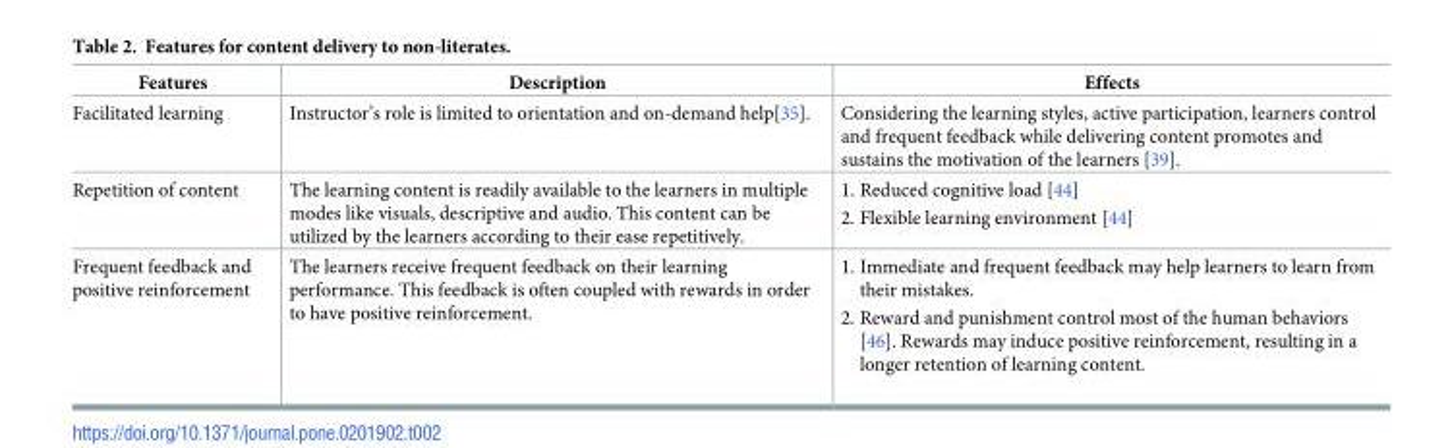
<table><thead><tr><td>Features</td><td>Description</td><td>Effects</td></tr></thead><tbody><tr><td>Facilitated learning</td><td>Instructor’s role is limited to orientation and on-demand help[35].</td><td>Considering the learning styles, active participation, learners control and frequent feedback while delivering content promotes and sustains the motivation of the learners [39].</td></tr><tr><td>Repetition of content</td><td>The learning content is readily available to the learners in multiple modes like visuals, descriptive and audio. This content can be utilized by the learners according to their ease repetitively.</td><td>1. Reduced cognitive load [44] 2. Flexible learning environment [44]</td></tr><tr><td>Frequent feedback and positive reinforcement</td><td>The learners receive frequent feedback on their learning performance. This feedback is often coupled with rewards in order to have positive reinforcement.</td><td>1. Immediate and frequent feedback may help learners to learn from their mistakes. 2. Reward and punishment control most of the human behaviors [46]. Rewards may induce positive reinforcement, resulting in a longer retention of learning content.</td></tr></tbody></table>